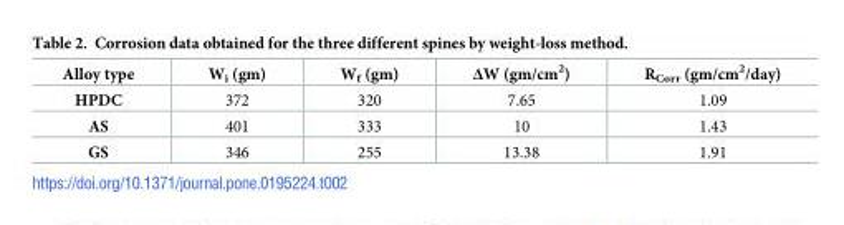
<table><thead><tr><td>Alloy type</td><td>W<sub>i</sub> (gm)</td><td>W<sub>f</sub> (gm)</td><td>ΔW (gm/cm<sup>2</sup>)</td><td>R<sub>Corr</sub> (gm/cm<sup>2</sup>/day)</td></tr></thead><tbody><tr><td>HPDC</td><td>372</td><td>320</td><td>7.65</td><td>1.09</td></tr><tr><td>AS</td><td>401</td><td>333</td><td>10</td><td>1.43</td></tr><tr><td>GS</td><td>346</td><td>255</td><td>13.38</td><td>1.91</td></tr></tbody></table>